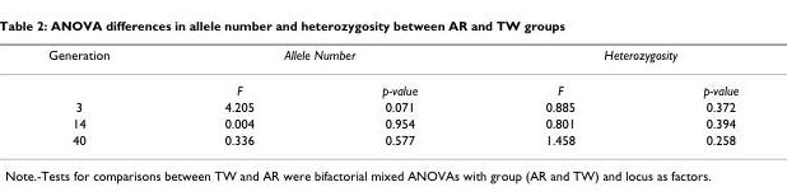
<table><thead><tr><td rowspan="2">Generation</td><td colspan="2">Allele Number</td><td colspan="2">Heterozygosity</td></tr><tr><td>F</td><td>p-value</td><td>F</td><td>p-value</td></tr></thead><tbody><tr><td>3</td><td>4.205</td><td>0.071</td><td>0.885</td><td>0.372</td></tr><tr><td>14</td><td>0.004</td><td>0.954</td><td>0.801</td><td>0.394</td></tr><tr><td>40</td><td>0.336</td><td>0.577</td><td>1.458</td><td>0.258</td></tr></tbody></table>